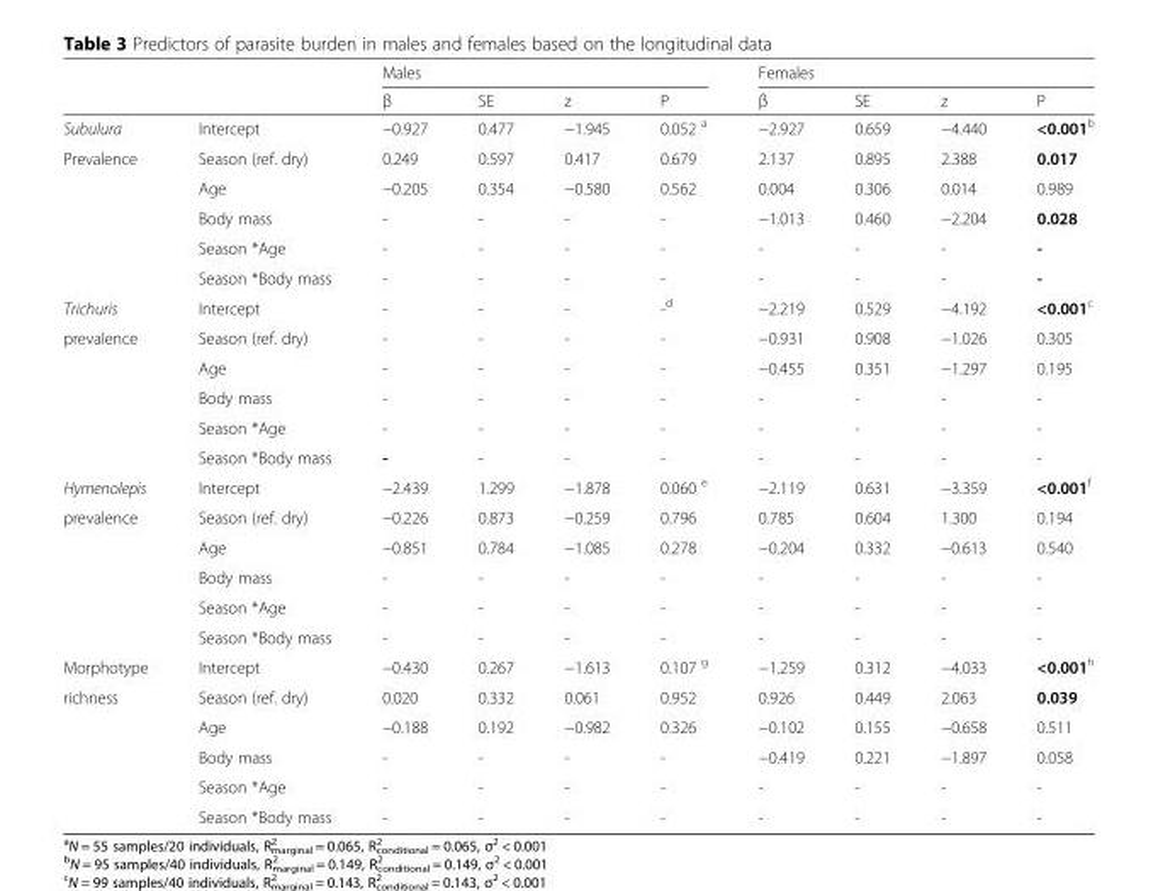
<table><thead><tr><td rowspan="2"></td><td rowspan="2"></td><td colspan="4">Males</td><td colspan="4">Females</td></tr><tr><td>β</td><td>SE</td><td>z</td><td>P</td><td>β</td><td>SE</td><td>z</td><td>P</td></tr></thead><tbody><tr><td>Subulura</td><td>Intercept</td><td>−0.927</td><td>0.477</td><td>−1.945</td><td>0.052 <sup>a</sup></td><td>−2.927</td><td>0.659</td><td>−4.440</td><td>&lt;0.001<sup>b</sup></td></tr><tr><td rowspan="5">Prevalence</td><td>Season (ref. dry)</td><td>0.249</td><td>0.597</td><td>0.417</td><td>0.679</td><td>2.137</td><td>0.895</td><td>2.388</td><td>0.017</td></tr><tr><td>Age</td><td>−0.205</td><td>0.354</td><td>−0.580</td><td>0.562</td><td>0.004</td><td>0.306</td><td>0.014</td><td>0.989</td></tr><tr><td>Body mass</td><td>-</td><td>-</td><td>-</td><td>-</td><td>−1.013</td><td>0.460</td><td>−2.204</td><td>0.028</td></tr><tr><td>Season *Age</td><td>-</td><td>-</td><td>-</td><td>-</td><td>-</td><td>-</td><td>-</td><td>-</td></tr><tr><td>Season *Body mass</td><td>-</td><td>-</td><td>-</td><td>-</td><td>-</td><td>-</td><td>-</td><td>-</td></tr><tr><td>Trichuris</td><td>Intercept</td><td>-</td><td>-</td><td>-</td><td>-<sup>d</sup></td><td>−2.219</td><td>0.529</td><td>−4.192</td><td>&lt;0.001<sup>c</sup></td></tr><tr><td rowspan="5">prevalence</td><td>Season (ref. dry)</td><td>-</td><td>-</td><td>-</td><td>-</td><td>−0.931</td><td>0.908</td><td>−1.026</td><td>0.305</td></tr><tr><td>Age</td><td>-</td><td>-</td><td>-</td><td>-</td><td>−0.455</td><td>0.351</td><td>−1.297</td><td>0.195</td></tr><tr><td>Body mass</td><td>-</td><td>-</td><td>-</td><td>-</td><td>-</td><td>-</td><td>-</td><td>-</td></tr><tr><td>Season *Age</td><td>-</td><td>-</td><td>-</td><td>-</td><td>-</td><td>-</td><td>-</td><td>-</td></tr><tr><td>Season *Body mass</td><td>-</td><td>-</td><td>-</td><td>-</td><td>-</td><td>-</td><td>-</td><td>-</td></tr><tr><td>Hymenolepis</td><td>Intercept</td><td>−2.439</td><td>1.299</td><td>−1.878</td><td>0.060 <sup>e</sup></td><td>−2.119</td><td>0.631</td><td>−3.359</td><td>&lt;0.001<sup>f</sup></td></tr><tr><td rowspan="5">prevalence</td><td>Season (ref. dry)</td><td>−0.226</td><td>0.873</td><td>−0.259</td><td>0.796</td><td>0.785</td><td>0.604</td><td>1.300</td><td>0.194</td></tr><tr><td>Age</td><td>−0.851</td><td>0.784</td><td>−1.085</td><td>0.278</td><td>−0.204</td><td>0.332</td><td>−0.613</td><td>0.540</td></tr><tr><td>Body mass</td><td>-</td><td>-</td><td>-</td><td>-</td><td>-</td><td>-</td><td>-</td><td>-</td></tr><tr><td>Season *Age</td><td>-</td><td>-</td><td>-</td><td>-</td><td>-</td><td>-</td><td>-</td><td>-</td></tr><tr><td>Season *Body mass</td><td>-</td><td>-</td><td>-</td><td>-</td><td>-</td><td>-</td><td>-</td><td>-</td></tr><tr><td>Morphotype</td><td>Intercept</td><td>−0.430</td><td>0.267</td><td>−1.613</td><td>0.107 <sup>g</sup></td><td>−1.259</td><td>0.312</td><td>−4.033</td><td>&lt;0.001<sup>h</sup></td></tr><tr><td rowspan="5">richness</td><td>Season (ref. dry)</td><td>0.020</td><td>0.332</td><td>0.061</td><td>0.952</td><td>0.926</td><td>0.449</td><td>2.063</td><td>0.039</td></tr><tr><td>Age</td><td>−0.188</td><td>0.192</td><td>−0.982</td><td>0.326</td><td>−0.102</td><td>0.155</td><td>−0.658</td><td>0.511</td></tr><tr><td>Body mass</td><td>-</td><td>-</td><td>-</td><td>-</td><td>−0.419</td><td>0.221</td><td>−1.897</td><td>0.058</td></tr><tr><td>Season *Age</td><td>-</td><td>-</td><td>-</td><td>-</td><td>-</td><td>-</td><td>-</td><td>-</td></tr><tr><td>Season *Body mass</td><td>-</td><td>-</td><td>-</td><td>-</td><td>-</td><td>-</td><td>-</td><td>-</td></tr></tbody></table>